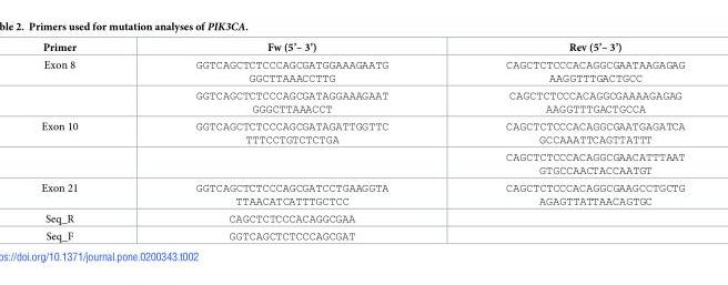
<table><thead><tr><td>Primer</td><td>Fw (5’– 3’)</td><td>Rev (5’– 3’)</td></tr></thead><tbody><tr><td rowspan="2">Exon 8</td><td>GGTCAGCTCTCCCAGCGATGGAAAGAATG GGCTTAAACCTTG</td><td>CAGCTCTCCCACAGGCGAATAAGAGAG AAGGTTTGACTGCC</td></tr><tr><td>GGTCAGCTCTCCCAGCGATAGGAAAGAAT GGGCTTAAACCT</td><td>CAGCTCTCCCACAGGCGAAAAGAGAG AAGGTTTGACTGCCA</td></tr><tr><td rowspan="2">Exon 10</td><td>GGTCAGCTCTCCCAGCGATAGATTGGTTC TTTCCTGTCTCTGA</td><td>CAGCTCTCCCACAGGCGAATGAGATCA GCCAAATTCAGTTATTT</td></tr><tr><td></td><td>CAGCTCTCCCACAGGCGAACATTTAAT GTGCCAACTACCAATGT</td></tr><tr><td>Exon 21</td><td>GGTCAGCTCTCCCAGCGATCCTGAAGGTA TTAACATCATTTGCTCC</td><td>CAGCTCTCCCACAGGCGAAGCCTGCTG AGAGTTATTAACAGTGC</td></tr><tr><td>Seq_R</td><td>CAGCTCTCCCACAGGCGAA</td><td></td></tr><tr><td>Seq_F</td><td>GGTCAGCTCTCCCAGCGAT</td><td></td></tr></tbody></table>